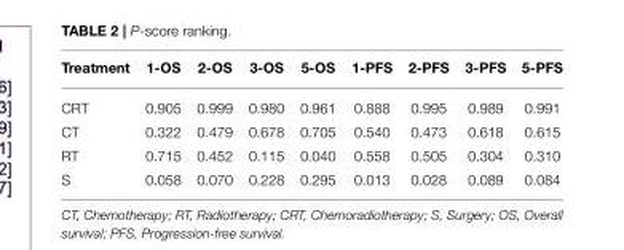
<table><thead><tr><td>Treatment</td><td>1-OS</td><td>2-OS</td><td>3-OS</td><td>5-OS</td><td>1-PFS</td><td>2-PFS</td><td>3-PFS</td><td>5-PFS</td></tr></thead><tbody><tr><td>CRT</td><td>0.905</td><td>0.999</td><td>0.980</td><td>0.961</td><td>0.888</td><td>0.995</td><td>0.989</td><td>0.991</td></tr><tr><td>CT</td><td>0.322</td><td>0.479</td><td>0.678</td><td>0.705</td><td>0.540</td><td>0.473</td><td>0.618</td><td>0.615</td></tr><tr><td>RT</td><td>0.715</td><td>0.452</td><td>0.115</td><td>0.040</td><td>0.558</td><td>0.505</td><td>0.304</td><td>0.310</td></tr><tr><td>S</td><td>0.058</td><td>0.070</td><td>0.228</td><td>0.295</td><td>0.013</td><td>0.028</td><td>0.089</td><td>0.084</td></tr></tbody></table>